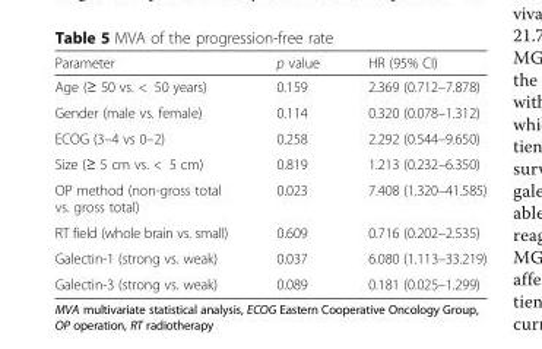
<table><thead><tr><td>Parameter</td><td>p value</td><td>HR (95% CI)</td></tr></thead><tbody><tr><td>Age (≥ 50 vs. &lt; 50 years)</td><td>0.159</td><td>2.369 (0.712–7.878)</td></tr><tr><td>Gender (male vs. female)</td><td>0.114</td><td>0.320 (0.078–1.312)</td></tr><tr><td>ECOG (3–4 vs 0–2)</td><td>0.258</td><td>2.292 (0.544–9.650)</td></tr><tr><td>Size (≥ 5 cm vs. &lt; 5 cm)</td><td>0.819</td><td>1.213 (0.232–6.350)</td></tr><tr><td>OP method (non-gross total vs. gross total)</td><td>0.023</td><td>7.408 (1.320–41.585)</td></tr><tr><td>RT field (whole brain vs. small)</td><td>0.609</td><td>0.716 (0.202–2.535)</td></tr><tr><td>Galectin-1 (strong vs. weak)</td><td>0.037</td><td>6.080 (1.113–33.219)</td></tr><tr><td>Galectin-3 (strong vs. weak)</td><td>0.089</td><td>0.181 (0.025–1.299)</td></tr></tbody></table>